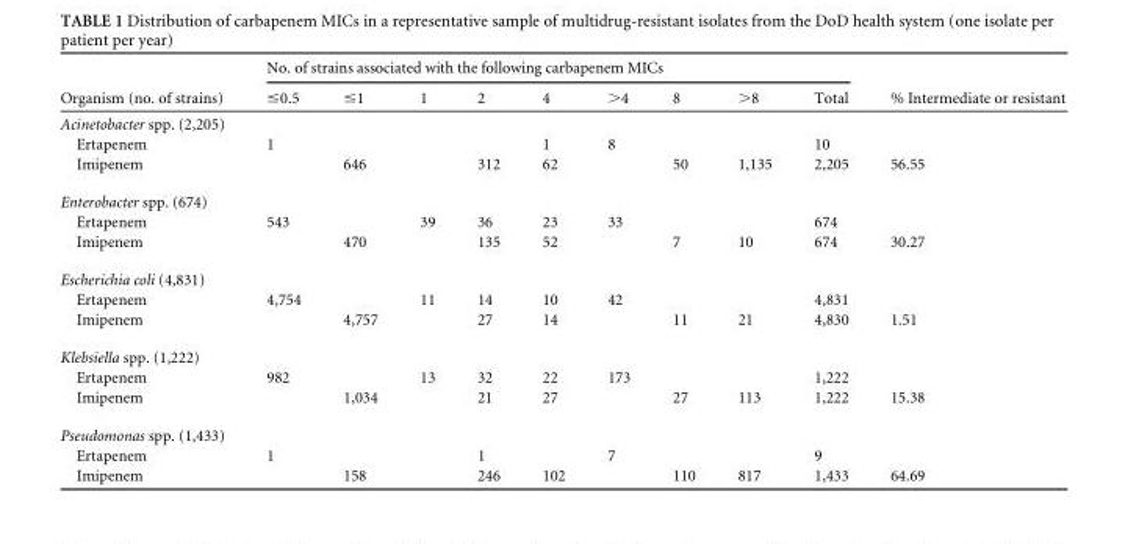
<table><thead><tr><td rowspan="2">Organism (no. of strains)</td><td colspan="9">No. of strains associated with the following carbapenem MICs</td><td rowspan="2">% Intermediate or resistant</td></tr><tr><td>≤0.5</td><td>≤1</td><td>1</td><td>2</td><td>4</td><td>&gt;4</td><td>8</td><td>&gt;8</td><td>Total</td></tr></thead><tbody><tr><td colspan="11">Acinetobacter spp. (2,205)</td></tr><tr><td>Ertapenem</td><td>1</td><td></td><td></td><td></td><td>1</td><td>8</td><td></td><td></td><td>10</td><td></td></tr><tr><td>Imipenem</td><td></td><td>646</td><td></td><td>312</td><td>62</td><td></td><td>50</td><td>1,135</td><td>2,205</td><td>56.55</td></tr><tr><td colspan="11">Enterobacter spp. (674)</td></tr><tr><td>Ertapenem</td><td>543</td><td></td><td>39</td><td>36</td><td>23</td><td>33</td><td></td><td></td><td>674</td><td></td></tr><tr><td>Imipenem</td><td></td><td>470</td><td></td><td>135</td><td>52</td><td></td><td>7</td><td>10</td><td>674</td><td>30.27</td></tr><tr><td colspan="11">Escherichia coli (4,831)</td></tr><tr><td>Ertapenem</td><td>4,754</td><td></td><td>11</td><td>14</td><td>10</td><td>42</td><td></td><td></td><td>4,831</td><td></td></tr><tr><td>Imipenem</td><td></td><td>4,757</td><td></td><td>27</td><td>14</td><td></td><td>11</td><td>21</td><td>4,830</td><td>1.51</td></tr><tr><td colspan="11">Klebsiella spp. (1,222)</td></tr><tr><td>Ertapenem</td><td>982</td><td></td><td>13</td><td>32</td><td>22</td><td>173</td><td></td><td></td><td>1,222</td><td></td></tr><tr><td>Imipenem</td><td></td><td>1,034</td><td></td><td>21</td><td>27</td><td></td><td>27</td><td>113</td><td>1,222</td><td>15.38</td></tr><tr><td colspan="11">Pseudomonas spp. (1,433)</td></tr><tr><td>Ertapenem</td><td>1</td><td></td><td></td><td>1</td><td></td><td>7</td><td></td><td></td><td>9</td><td></td></tr><tr><td>Imipenem</td><td></td><td>158</td><td></td><td>246</td><td>102</td><td></td><td>110</td><td>817</td><td>1,433</td><td>64.69</td></tr></tbody></table>